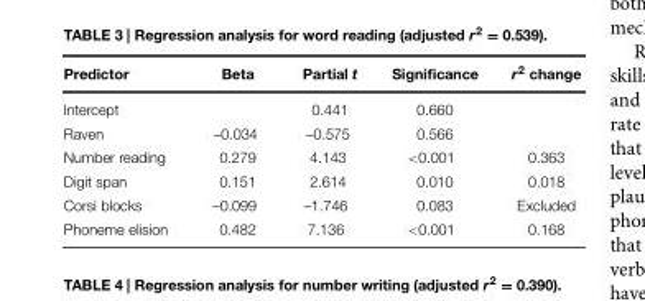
<table><thead><tr><td>Predictor</td><td>Beta</td><td>Partial t</td><td>Significance</td><td>r<sup>2</sup> change</td></tr></thead><tbody><tr><td>Intercept</td><td></td><td>0.441</td><td>0.660</td><td></td></tr><tr><td>Raven</td><td>–0.034</td><td>–0.575</td><td>0.566</td><td></td></tr><tr><td>Number reading</td><td>0.279</td><td>4.143</td><td>&lt;0.001</td><td>0.363</td></tr><tr><td>Digit span</td><td>0.151</td><td>2.614</td><td>0.010</td><td>0.018</td></tr><tr><td>Corsi blocks</td><td>–0.099</td><td>–1.746</td><td>0.083</td><td>Excluded</td></tr><tr><td>Phoneme elision</td><td>0.482</td><td>7.136</td><td>&lt;0.001</td><td>0.168</td></tr></tbody></table>